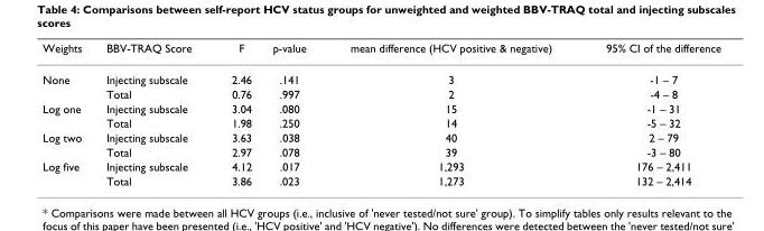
<table><thead><tr><td>Weights</td><td>BBV-TRAQ Score</td><td>F</td><td>p-value</td><td>mean difference (HCV positive &amp; negative)</td><td>95% CI of the difference</td></tr></thead><tbody><tr><td rowspan="2">None</td><td>Injecting subscale</td><td>2.46</td><td>.141</td><td>3</td><td>-1 – 7</td></tr><tr><td>Total</td><td>0.76</td><td>.997</td><td>2</td><td>-4 – 8</td></tr><tr><td rowspan="2">Log one</td><td>Injecting subscale</td><td>3.04</td><td>.080</td><td>15</td><td>-1 – 31</td></tr><tr><td>Total</td><td>1.98</td><td>.250</td><td>14</td><td>-5 – 32</td></tr><tr><td rowspan="2">Log two</td><td>Injecting subscale</td><td>3.63</td><td>.038</td><td>40</td><td>2 – 79</td></tr><tr><td>Total</td><td>2.97</td><td>.078</td><td>39</td><td>-3 – 80</td></tr><tr><td rowspan="2">Log five</td><td>Injecting subscale</td><td>4.12</td><td>.017</td><td>1,293</td><td>176 – 2,411</td></tr><tr><td>Total</td><td>3.86</td><td>.023</td><td>1,273</td><td>132 – 2,414</td></tr></tbody></table>